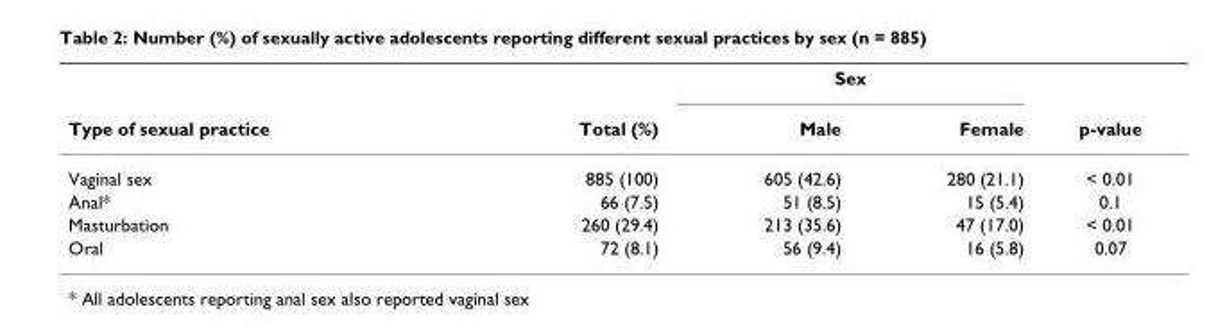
<table><thead><tr><td rowspan="2">Type of sexual practice</td><td rowspan="2">Total (%)</td><td colspan="2">Sex</td><td rowspan="2">p-value</td></tr><tr><td>Male</td><td>Female</td></tr></thead><tbody><tr><td>Vaginal sex</td><td>885 (100)</td><td>605 (42.6)</td><td>280 (21.1)</td><td>&lt; 0.01</td></tr><tr><td>Anal*</td><td>66 (7.5)</td><td>51 (8.5)</td><td>15 (5.4)</td><td>0.1</td></tr><tr><td>Masturbation</td><td>260 (29.4)</td><td>213 (35.6)</td><td>47 (17.0)</td><td>&lt; 0.01</td></tr><tr><td>Oral</td><td>72 (8.1)</td><td>56 (9.4)</td><td>16 (5.8)</td><td>0.07</td></tr></tbody></table>